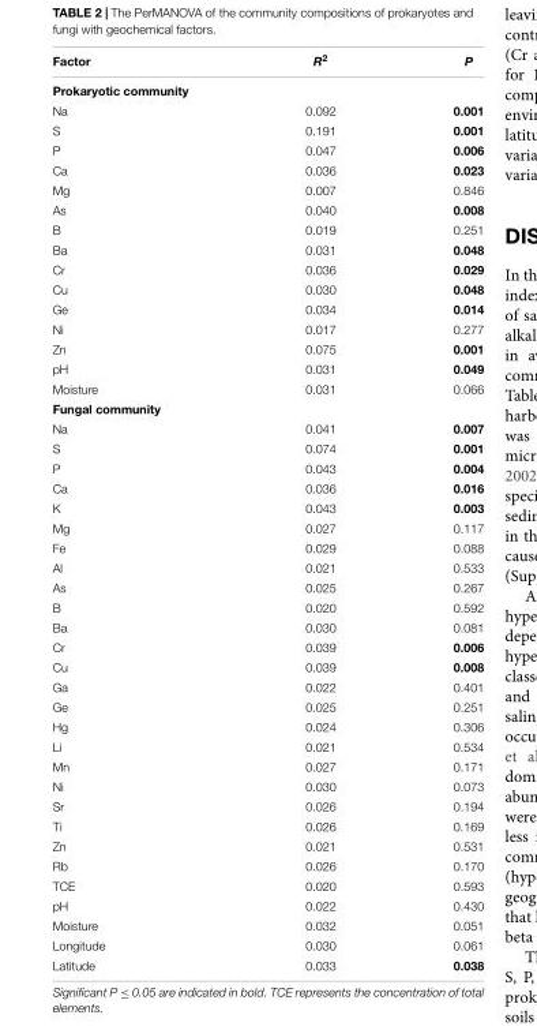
<table><thead><tr><td>Factor</td><td>R<sup>2</sup></td><td>P</td></tr></thead><tbody><tr><td colspan="3">Prokaryotic community</td></tr><tr><td>Na</td><td>0.092</td><td>0.001</td></tr><tr><td>S</td><td>0.191</td><td>0.001</td></tr><tr><td>P</td><td>0.047</td><td>0.006</td></tr><tr><td>Ca</td><td>0.036</td><td>0.023</td></tr><tr><td>Mg</td><td>0.007</td><td>0.846</td></tr><tr><td>As</td><td>0.040</td><td>0.008</td></tr><tr><td>B</td><td>0.019</td><td>0.251</td></tr><tr><td>Ba</td><td>0.031</td><td>0.048</td></tr><tr><td>Cr</td><td>0.036</td><td>0.029</td></tr><tr><td>Cu</td><td>0.030</td><td>0.048</td></tr><tr><td>Ge</td><td>0.034</td><td>0.014</td></tr><tr><td>Ni</td><td>0.017</td><td>0.277</td></tr><tr><td>Zn</td><td>0.075</td><td>0.001</td></tr><tr><td>pH</td><td>0.031</td><td>0.049</td></tr><tr><td>Moisture</td><td>0.031</td><td>0.066</td></tr><tr><td colspan="3">Fungal community</td></tr><tr><td>Na</td><td>0.041</td><td>0.007</td></tr><tr><td>S</td><td>0.074</td><td>0.001</td></tr><tr><td>P</td><td>0.043</td><td>0.004</td></tr><tr><td>Ca</td><td>0.036</td><td>0.016</td></tr><tr><td>K</td><td>0.043</td><td>0.003</td></tr><tr><td>Mg</td><td>0.027</td><td>0.117</td></tr><tr><td>Fe</td><td>0.029</td><td>0.088</td></tr><tr><td>Al</td><td>0.021</td><td>0.533</td></tr><tr><td>As</td><td>0.025</td><td>0.267</td></tr><tr><td>B</td><td>0.020</td><td>0.592</td></tr><tr><td>Ba</td><td>0.030</td><td>0.081</td></tr><tr><td>Cr</td><td>0.039</td><td>0.006</td></tr><tr><td>Cu</td><td>0.039</td><td>0.008</td></tr><tr><td>Ga</td><td>0.022</td><td>0.401</td></tr><tr><td>Ge</td><td>0.025</td><td>0.251</td></tr><tr><td>Hg</td><td>0.024</td><td>0.306</td></tr><tr><td>Li</td><td>0.021</td><td>0.534</td></tr><tr><td>Mn</td><td>0.027</td><td>0.171</td></tr><tr><td>Ni</td><td>0.030</td><td>0.073</td></tr><tr><td>Sr</td><td>0.026</td><td>0.194</td></tr><tr><td>Ti</td><td>0.026</td><td>0.169</td></tr><tr><td>Zn</td><td>0.021</td><td>0.531</td></tr><tr><td>Rb</td><td>0.026</td><td>0.170</td></tr><tr><td>TCE</td><td>0.020</td><td>0.593</td></tr><tr><td>pH</td><td>0.022</td><td>0.430</td></tr><tr><td>Moisture</td><td>0.032</td><td>0.051</td></tr><tr><td>Longitude</td><td>0.030</td><td>0.061</td></tr><tr><td>Latitude</td><td>0.033</td><td>0.038</td></tr></tbody></table>